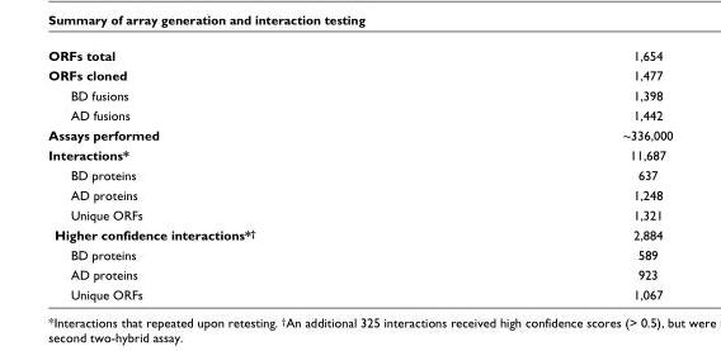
<table><tbody><tr><td>ORFs total</td><td>1,654</td></tr><tr><td>ORFs cloned</td><td>1,477</td></tr><tr><td>BD fusions</td><td>1,398</td></tr><tr><td>AD fusions</td><td>1,442</td></tr><tr><td>Assays performed</td><td>~336,000</td></tr><tr><td>Interactions*</td><td>11,687</td></tr><tr><td>BD proteins</td><td>637</td></tr><tr><td>AD proteins</td><td>1,248</td></tr><tr><td>Unique ORFs</td><td>1,321</td></tr><tr><td>Higher confidence interactions*<sup>†</sup></td><td>2,884</td></tr><tr><td>BD proteins</td><td>589</td></tr><tr><td>AD proteins</td><td>923</td></tr><tr><td>Unique ORFs</td><td>1,067</td></tr></tbody></table>